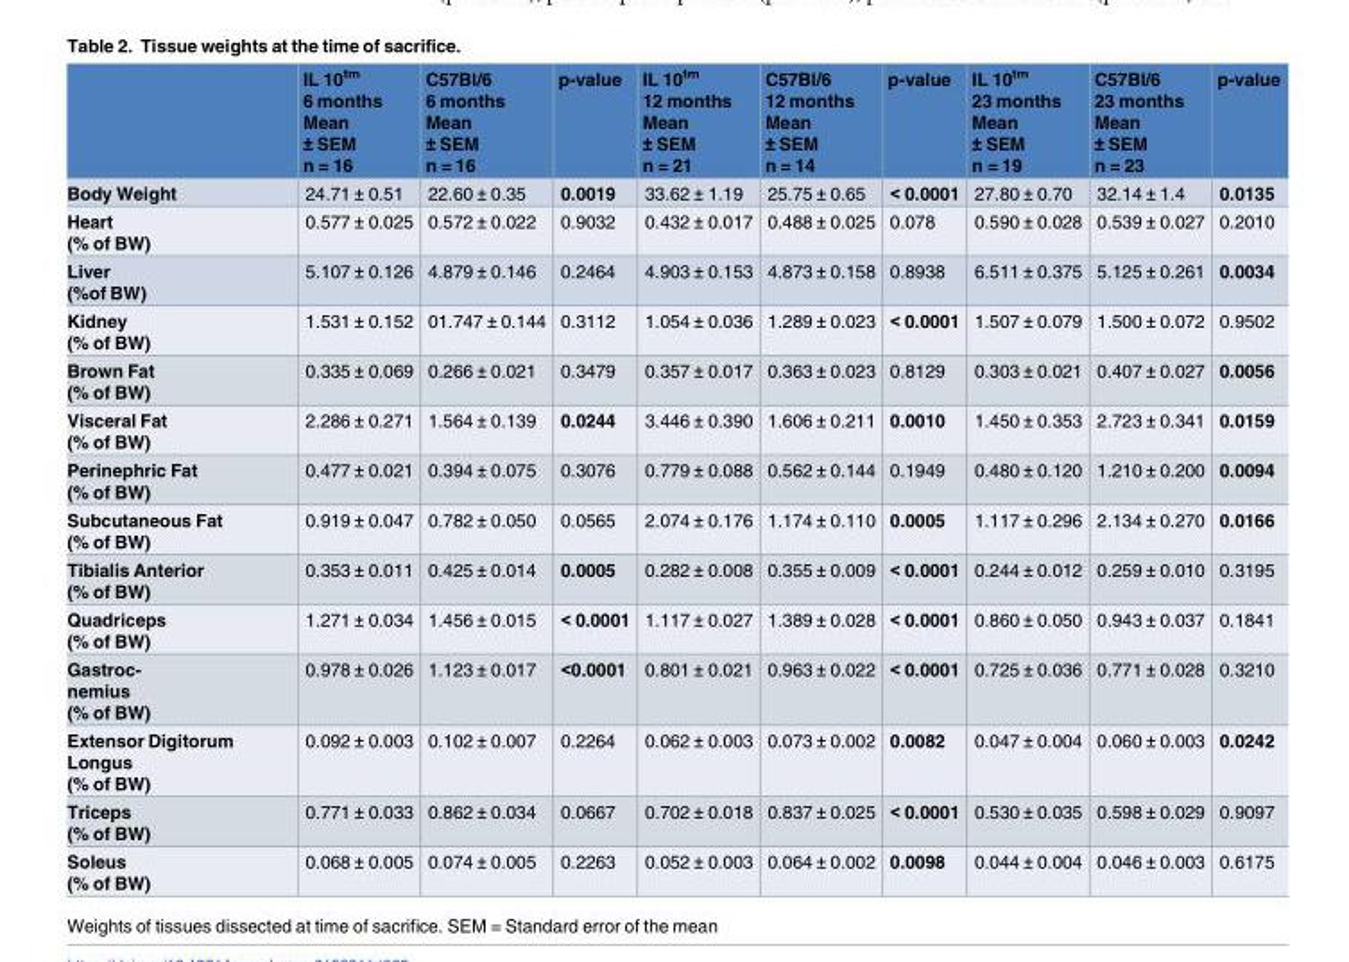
<table><thead><tr><td></td><td>IL 10<sup>tm</sup> 6 months Mean ± SEM n = 16</td><td>C57Bl/6 6 months Mean ± SEM n = 16</td><td>p-value</td><td>IL 10<sup>tm</sup> 12 months Mean ± SEM n = 21</td><td>C57Bl/6 12 months Mean ± SEM n = 14</td><td>p-value</td><td>IL 10<sup>tm</sup> 23 months Mean ± SEM n = 19</td><td>C57Bl/6 23 months Mean ± SEM n = 23</td><td>p-value</td></tr></thead><tbody><tr><td>Body Weight</td><td>24.71 ± 0.51</td><td>22.60 ± 0.35</td><td>0.0019</td><td>33.62 ± 1.19</td><td>25.75 ± 0.65</td><td>&lt; 0.0001</td><td>27.80 ± 0.70</td><td>32.14 ± 1.4</td><td>0.0135</td></tr><tr><td>Heart (% of BW)</td><td>0.577 ± 0.025</td><td>0.572 ± 0.022</td><td>0.9032</td><td>0.432 ± 0.017</td><td>0.488 ± 0.025</td><td>0.078</td><td>0.590 ± 0.028</td><td>0.539 ± 0.027</td><td>0.2010</td></tr><tr><td>Liver (%of BW)</td><td>5.107 ± 0.126</td><td>4.879 ± 0.146</td><td>0.2464</td><td>4.903 ± 0.153</td><td>4.873 ± 0.158</td><td>0.8938</td><td>6.511 ± 0.375</td><td>5.125 ± 0.261</td><td>0.0034</td></tr><tr><td>Kidney (% of BW)</td><td>1.531 ± 0.152</td><td>01.747 ± 0.144</td><td>0.3112</td><td>1.054 ± 0.036</td><td>1.289 ± 0.023</td><td>&lt; 0.0001</td><td>1.507 ± 0.079</td><td>1.500 ± 0.072</td><td>0.9502</td></tr><tr><td>Brown Fat (% of BW)</td><td>0.335 ± 0.069</td><td>0.266 ± 0.021</td><td>0.3479</td><td>0.357 ± 0.017</td><td>0.363 ± 0.023</td><td>0.8129</td><td>0.303 ± 0.021</td><td>0.407 ± 0.027</td><td>0.0056</td></tr><tr><td>Visceral Fat (% of BW)</td><td>2.286 ± 0.271</td><td>1.564 ± 0.139</td><td>0.0244</td><td>3.446 ± 0.390</td><td>1.606 ± 0.211</td><td>0.0010</td><td>1.450 ± 0.353</td><td>2.723 ± 0.341</td><td>0.0159</td></tr><tr><td>Perinephric Fat (% of BW)</td><td>0.477 ± 0.021</td><td>0.394 ± 0.075</td><td>0.3076</td><td>0.779 ± 0.088</td><td>0.562 ± 0.144</td><td>0.1949</td><td>0.480 ± 0.120</td><td>1.210 ± 0.200</td><td>0.0094</td></tr><tr><td>Subcutaneous Fat (% of BW)</td><td>0.919 ± 0.047</td><td>0.782 ± 0.050</td><td>0.0565</td><td>2.074 ± 0.176</td><td>1.174 ± 0.110</td><td>0.0005</td><td>1.117 ± 0.296</td><td>2.134 ± 0.270</td><td>0.0166</td></tr><tr><td>Tibialis Anterior (% of BW)</td><td>0.353 ± 0.011</td><td>0.425 ± 0.014</td><td>0.0005</td><td>0.282 ± 0.008</td><td>0.355 ± 0.009</td><td>&lt; 0.0001</td><td>0.244 ± 0.012</td><td>0.259 ± 0.010</td><td>0.3195</td></tr><tr><td>Quadriceps (% of BW)</td><td>1.271 ± 0.034</td><td>1.456 ± 0.015</td><td>&lt; 0.0001</td><td>1.117 ± 0.027</td><td>1.389 ± 0.028</td><td>&lt; 0.0001</td><td>0.860 ± 0.050</td><td>0.943 ± 0.037</td><td>0.1841</td></tr><tr><td>Gastroc- nemius (% of BW)</td><td>0.978 ± 0.026</td><td>1.123 ± 0.017</td><td>&lt;0.0001</td><td>0.801 ± 0.021</td><td>0.963 ± 0.022</td><td>&lt; 0.0001</td><td>0.725 ± 0.036</td><td>0.771 ± 0.028</td><td>0.3210</td></tr><tr><td>Extensor Digitorum Longus (% of BW)</td><td>0.092 ± 0.003</td><td>0.102 ± 0.007</td><td>0.2264</td><td>0.062 ± 0.003</td><td>0.073 ± 0.002</td><td>0.0082</td><td>0.047 ± 0.004</td><td>0.060 ± 0.003</td><td>0.0242</td></tr><tr><td>Triceps (% of BW)</td><td>0.771 ± 0.033</td><td>0.862 ± 0.034</td><td>0.0667</td><td>0.702 ± 0.018</td><td>0.837 ± 0.025</td><td>&lt; 0.0001</td><td>0.530 ± 0.035</td><td>0.598 ± 0.029</td><td>0.9097</td></tr><tr><td>Soleus (% of BW)</td><td>0.068 ± 0.005</td><td>0.074 ± 0.005</td><td>0.2263</td><td>0.052 ± 0.003</td><td>0.064 ± 0.002</td><td>0.0098</td><td>0.044 ± 0.004</td><td>0.046 ± 0.003</td><td>0.6175</td></tr></tbody></table>